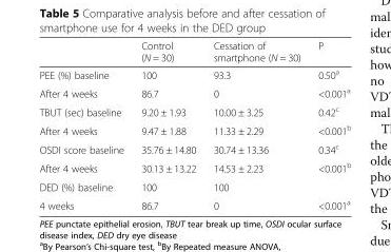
<table><thead><tr><td></td><td>Control (N = 30)</td><td>Cessation of smartphone (N = 30)</td><td>P</td></tr></thead><tbody><tr><td>PEE (%) baseline</td><td>100</td><td>93.3</td><td>0.50<sup>a</sup></td></tr><tr><td>After 4 weeks</td><td>86.7</td><td>0</td><td>&lt;0.001<sup>a</sup></td></tr><tr><td>TBUT (sec) baseline</td><td>9.20 ± 1.93</td><td>10.00 ± 3.25</td><td>0.42<sup>c</sup></td></tr><tr><td>After 4 weeks</td><td>9.47 ± 1.88</td><td>11.33 ± 2.29</td><td>&lt;0.001<sup>b</sup></td></tr><tr><td>OSDI score baseline</td><td>35.76 ± 14.80</td><td>30.74 ± 13.36</td><td>0.34<sup>c</sup></td></tr><tr><td>After 4 weeks</td><td>30.13 ± 13.22</td><td>14.53 ± 2.23</td><td>&lt;0.001<sup>b</sup></td></tr><tr><td>DED (%) baseline</td><td>100</td><td>100</td><td></td></tr><tr><td>4 weeks</td><td>86.7</td><td>0</td><td>&lt;0.001<sup>a</sup></td></tr></tbody></table>